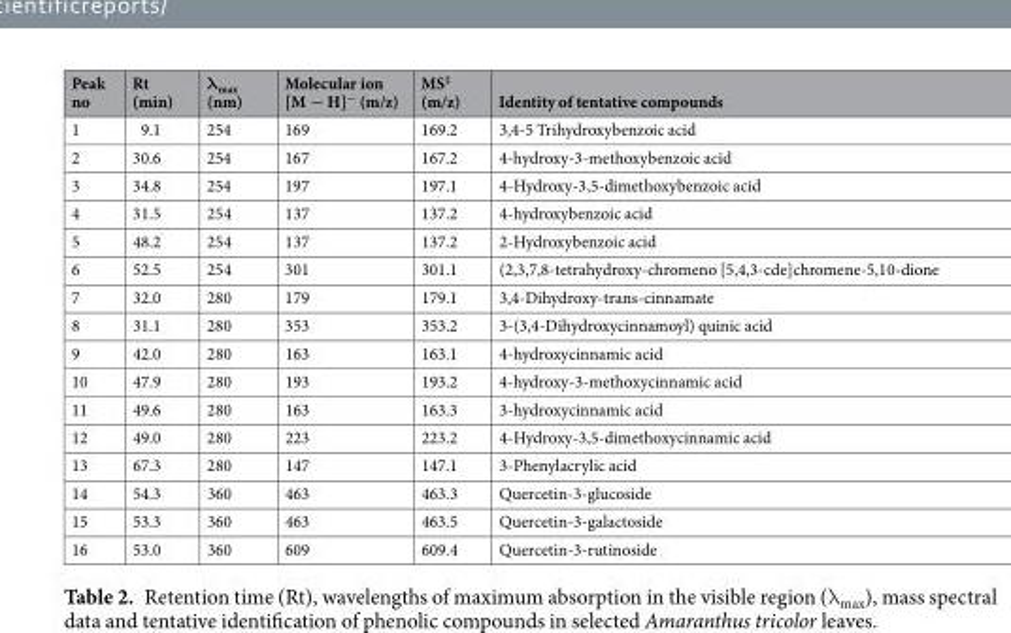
<table><thead><tr><td>Peak no</td><td>Rt (min)</td><td>λ<sub>max</sub> (nm)</td><td>Molecular ion [M − H]<sup>−</sup> (m/z)</td><td>MS<sup>2</sup> (m/z)</td><td>Identity of tentative compounds</td></tr></thead><tbody><tr><td>1</td><td>9.1</td><td>254</td><td>169</td><td>169.2</td><td>3,4-5 Trihydroxybenzoic acid</td></tr><tr><td>2</td><td>30.6</td><td>254</td><td>167</td><td>167.2</td><td>4-hydroxy-3-methoxybenzoic acid</td></tr><tr><td>3</td><td>34.8</td><td>254</td><td>197</td><td>197.1</td><td>4-Hydroxy-3,5-dimethoxybenzoic acid</td></tr><tr><td>4</td><td>31.5</td><td>254</td><td>137</td><td>137.2</td><td>4-hydroxybenzoic acid</td></tr><tr><td>5</td><td>48.2</td><td>254</td><td>137</td><td>137.2</td><td>2-Hydroxybenzoic acid</td></tr><tr><td>6</td><td>52.5</td><td>254</td><td>301</td><td>301.1</td><td>(2,3,7,8-tetrahydroxy-chromeno [5,4,3-cde]chromene-5,10-dione</td></tr><tr><td>7</td><td>32.0</td><td>280</td><td>179</td><td>179.1</td><td>3,4-Dihydroxy-trans-cinnamate</td></tr><tr><td>8</td><td>31.1</td><td>280</td><td>353</td><td>353.2</td><td>3-(3,4-Dihydroxycinnamoyl) quinic acid</td></tr><tr><td>9</td><td>42.0</td><td>280</td><td>163</td><td>163.1</td><td>4-hydroxycinnamic acid</td></tr><tr><td>10</td><td>47.9</td><td>280</td><td>193</td><td>193.2</td><td>4-hydroxy-3-methoxycinnamic acid</td></tr><tr><td>11</td><td>49.6</td><td>280</td><td>163</td><td>163.3</td><td>3-hydroxycinnamic acid</td></tr><tr><td>12</td><td>49.0</td><td>280</td><td>223</td><td>223.2</td><td>4-Hydroxy-3,5-dimethoxycinnamic acid</td></tr><tr><td>13</td><td>67.3</td><td>280</td><td>147</td><td>147.1</td><td>3-Phenylacrylic acid</td></tr><tr><td>14</td><td>54.3</td><td>360</td><td>463</td><td>463.3</td><td>Quercetin-3-glucoside</td></tr><tr><td>15</td><td>53.3</td><td>360</td><td>463</td><td>463.5</td><td>Quercetin-3-galactoside</td></tr><tr><td>16</td><td>53.0</td><td>360</td><td>609</td><td>609.4</td><td>Quercetin-3-rutinoside</td></tr></tbody></table>